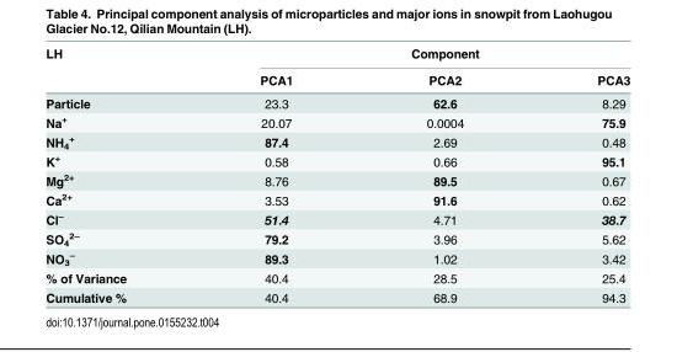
<table><thead><tr><td rowspan="2">LH</td><td colspan="3">Component</td></tr><tr><td>PCA1</td><td>PCA2</td><td>PCA3</td></tr></thead><tbody><tr><td>Particle</td><td>23.3</td><td>62.6</td><td>8.29</td></tr><tr><td>Na<sup>+</sup></td><td>20.07</td><td>0.0004</td><td>75.9</td></tr><tr><td>NH<sub>4</sub> <sup>+</sup></td><td>87.4</td><td>2.69</td><td>0.48</td></tr><tr><td>K<sup>+</sup></td><td>0.58</td><td>0.66</td><td>95.1</td></tr><tr><td>Mg<sup>2+</sup></td><td>8.76</td><td>89.5</td><td>0.67</td></tr><tr><td>Ca<sup>2+</sup></td><td>3.53</td><td>91.6</td><td>0.62</td></tr><tr><td>Cl<sup>–</sup></td><td>51.4</td><td>4.71</td><td>38.7</td></tr><tr><td>SO<sub>4</sub> <sup>2–</sup></td><td>79.2</td><td>3.96</td><td>5.62</td></tr><tr><td>NO<sub>3</sub> <sup>–</sup></td><td>89.3</td><td>1.02</td><td>3.42</td></tr><tr><td>% of Variance</td><td>40.4</td><td>28.5</td><td>25.4</td></tr><tr><td>Cumulative %</td><td>40.4</td><td>68.9</td><td>94.3</td></tr></tbody></table>